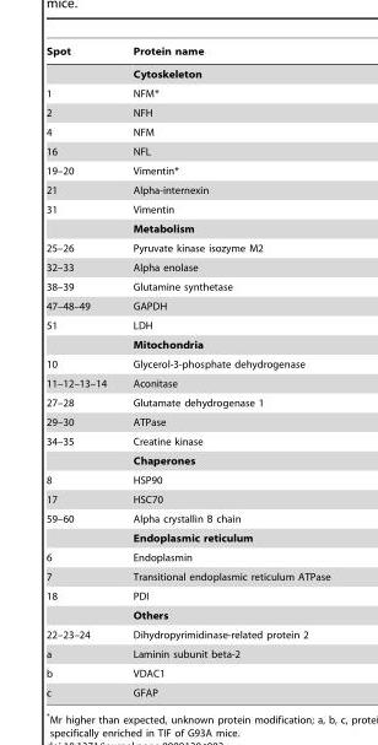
<table><thead><tr><td>Spot</td><td>Protein name</td></tr></thead><tbody><tr><td></td><td>Cytoskeleton</td></tr><tr><td>1</td><td>NFM*</td></tr><tr><td>2</td><td>NFH</td></tr><tr><td>4</td><td>NFM</td></tr><tr><td>16</td><td>NFL</td></tr><tr><td>19–20</td><td>Vimentin*</td></tr><tr><td>21</td><td>Alpha-internexin</td></tr><tr><td rowspan="2">31</td><td>Vimentin</td></tr><tr><td>Metabolism</td></tr><tr><td>25–26</td><td>Pyruvate kinase isozyme M2</td></tr><tr><td>32–33</td><td>Alpha enolase</td></tr><tr><td>38–39</td><td>Glutamine synthetase</td></tr><tr><td>47–48–49</td><td>GAPDH</td></tr><tr><td rowspan="2">51</td><td>LDH</td></tr><tr><td>Mitochondria</td></tr><tr><td>10</td><td>Glycerol-3-phosphate dehydrogenase</td></tr><tr><td>11–12–13–14</td><td>Aconitase</td></tr><tr><td>27–28</td><td>Glutamate dehydrogenase 1</td></tr><tr><td>29–30</td><td>ATPase</td></tr><tr><td rowspan="2">34–35</td><td>Creatine kinase</td></tr><tr><td>Chaperones</td></tr><tr><td>8</td><td>HSP90</td></tr><tr><td>17</td><td>HSC70</td></tr><tr><td rowspan="2">59–60</td><td>Alpha crystallin B chain</td></tr><tr><td>Endoplasmic reticulum</td></tr><tr><td>6</td><td>Endoplasmin</td></tr><tr><td>7</td><td>Transitional endoplasmic reticulum ATPase</td></tr><tr><td rowspan="2">18</td><td>PDI</td></tr><tr><td>Others</td></tr><tr><td>22–23–24</td><td>Dihydropyrimidinase-related protein 2</td></tr><tr><td>a</td><td>Laminin subunit beta-2</td></tr><tr><td>b</td><td>VDAC1</td></tr><tr><td>c</td><td>GFAP</td></tr></tbody></table>